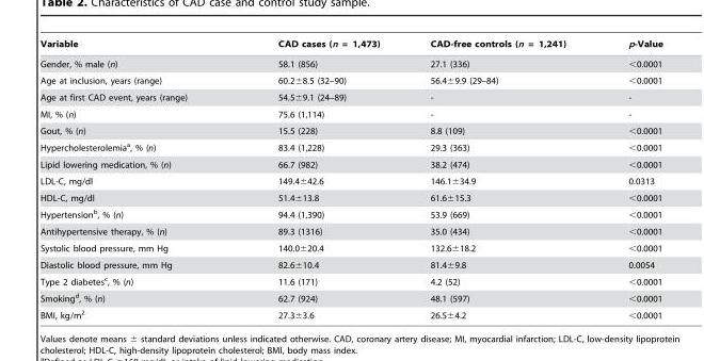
<table><thead><tr><td>Variable</td><td>CAD cases (n = 1,473)</td><td>CAD-free controls (n = 1,241)</td><td>p-Value</td></tr></thead><tbody><tr><td>Gender, % male (n)</td><td>58.1 (856)</td><td>27.1 (336)</td><td>&lt;0.0001</td></tr><tr><td>Age at inclusion, years (range)</td><td>60.2±8.5 (32–90)</td><td>56.4±9.9 (29–84)</td><td>&lt;0.0001</td></tr><tr><td>Age at first CAD event, years (range)</td><td>54.5±9.1 (24–89)</td><td>-</td><td>-</td></tr><tr><td>MI, % (n)</td><td>75.6 (1,114)</td><td>-</td><td>-</td></tr><tr><td>Gout, % (n)</td><td>15.5 (228)</td><td>8.8 (109)</td><td>&lt;0.0001</td></tr><tr><td>Hypercholesterolemia<sup>a</sup>, % (n)</td><td>83.4 (1,228)</td><td>29.3 (363)</td><td>&lt;0.0001</td></tr><tr><td>Lipid lowering medication, % (n)</td><td>66.7 (982)</td><td>38.2 (474)</td><td>&lt;0.0001</td></tr><tr><td>LDL-C, mg/dl</td><td>149.4±42.6</td><td>146.1±34.9</td><td>0.0313</td></tr><tr><td>HDL-C, mg/dl</td><td>51.4±13.8</td><td>61.6±15.3</td><td>&lt;0.0001</td></tr><tr><td>Hypertension<sup>b</sup>, % (n)</td><td>94.4 (1,390)</td><td>53.9 (669)</td><td>&lt;0.0001</td></tr><tr><td>Antihypertensive therapy, % (n)</td><td>89.3 (1316)</td><td>35.0 (434)</td><td>&lt;0.0001</td></tr><tr><td>Systolic blood pressure, mm Hg</td><td>140.0±20.4</td><td>132.6±18.2</td><td>&lt;0.0001</td></tr><tr><td>Diastolic blood pressure, mm Hg</td><td>82.6±10.4</td><td>81.4±9.8</td><td>0.0054</td></tr><tr><td>Type 2 diabetes<sup>c</sup>, % (n)</td><td>11.6 (171)</td><td>4.2 (52)</td><td>&lt;0.0001</td></tr><tr><td>Smoking<sup>d</sup>, % (n)</td><td>62.7 (924)</td><td>48.1 (597)</td><td>&lt;0.0001</td></tr><tr><td>BMI, kg/m<sup>2</sup></td><td>27.3±3.6</td><td>26.5±4.2</td><td>&lt;0.0001</td></tr></tbody></table>